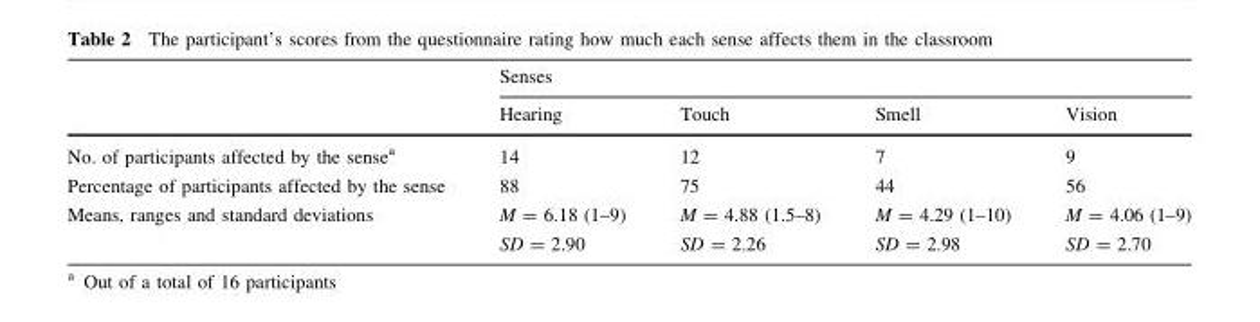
<table><thead><tr><td rowspan="2"></td><td colspan="4">Senses</td></tr><tr><td>Hearing</td><td>Touch</td><td>Smell</td><td>Vision</td></tr></thead><tbody><tr><td>No. of participants affected by the sense<sup>a</sup></td><td>14</td><td>12</td><td>7</td><td>9</td></tr><tr><td>Percentage of participants affected by the sense</td><td>88</td><td>75</td><td>44</td><td>56</td></tr><tr><td rowspan="2">Means, ranges and standard deviations</td><td>M = 6.18 (1–9)</td><td>M = 4.88 (1.5–8)</td><td>M = 4.29 (1–10)</td><td>M = 4.06 (1–9)</td></tr><tr><td>SD = 2.90</td><td>SD = 2.26</td><td>SD = 2.98</td><td>SD = 2.70</td></tr></tbody></table>